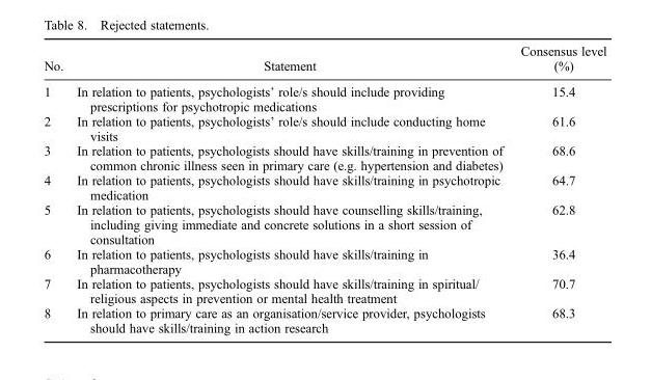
<table><thead><tr><td>No.</td><td>Statement</td><td>Consensus level (%)</td></tr></thead><tbody><tr><td>1</td><td>In relation to patients, psychologists’ role/s should include providing prescriptions for psychotropic medications</td><td>15.4</td></tr><tr><td>2</td><td>In relation to patients, psychologists’ role/s should include conducting home visits</td><td>61.6</td></tr><tr><td>3</td><td>In relation to patients, psychologists should have skills/training in prevention of common chronic illness seen in primary care (e.g. hypertension and diabetes)</td><td>68.6</td></tr><tr><td>4</td><td>In relation to patients, psychologists should have skills/training in psychotropic medication</td><td>64.7</td></tr><tr><td>5</td><td>In relation to patients, psychologists should have counselling skills/training, including giving immediate and concrete solutions in a short session of consultation</td><td>62.8</td></tr><tr><td>6</td><td>In relation to patients, psychologists should have skills/training in pharmacotherapy</td><td>36.4</td></tr><tr><td>7</td><td>In relation to patients, psychologists should have skills/training in spiritual/ religious aspects in prevention or mental health treatment</td><td>70.7</td></tr><tr><td>8</td><td>In relation to primary care as an organisation/service provider, psychologists should have skills/training in action research</td><td>68.3</td></tr></tbody></table>